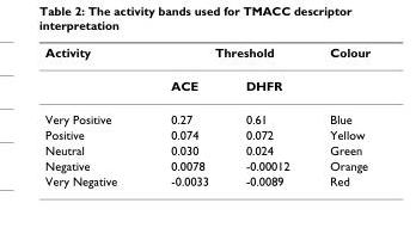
<table><thead><tr><td rowspan="2">Activity</td><td colspan="2">Threshold</td><td rowspan="2">Colour</td></tr><tr><td>ACE</td><td>DHFR</td></tr></thead><tbody><tr><td>Very Positive</td><td>0.27</td><td>0.61</td><td>Blue</td></tr><tr><td>Positive</td><td>0.074</td><td>0.072</td><td>Yellow</td></tr><tr><td>Neutral</td><td>0.030</td><td>0.024</td><td>Green</td></tr><tr><td>Negative</td><td>0.0078</td><td>-0.00012</td><td>Orange</td></tr><tr><td>Very Negative</td><td>-0.0033</td><td>-0.0089</td><td>Red</td></tr></tbody></table>